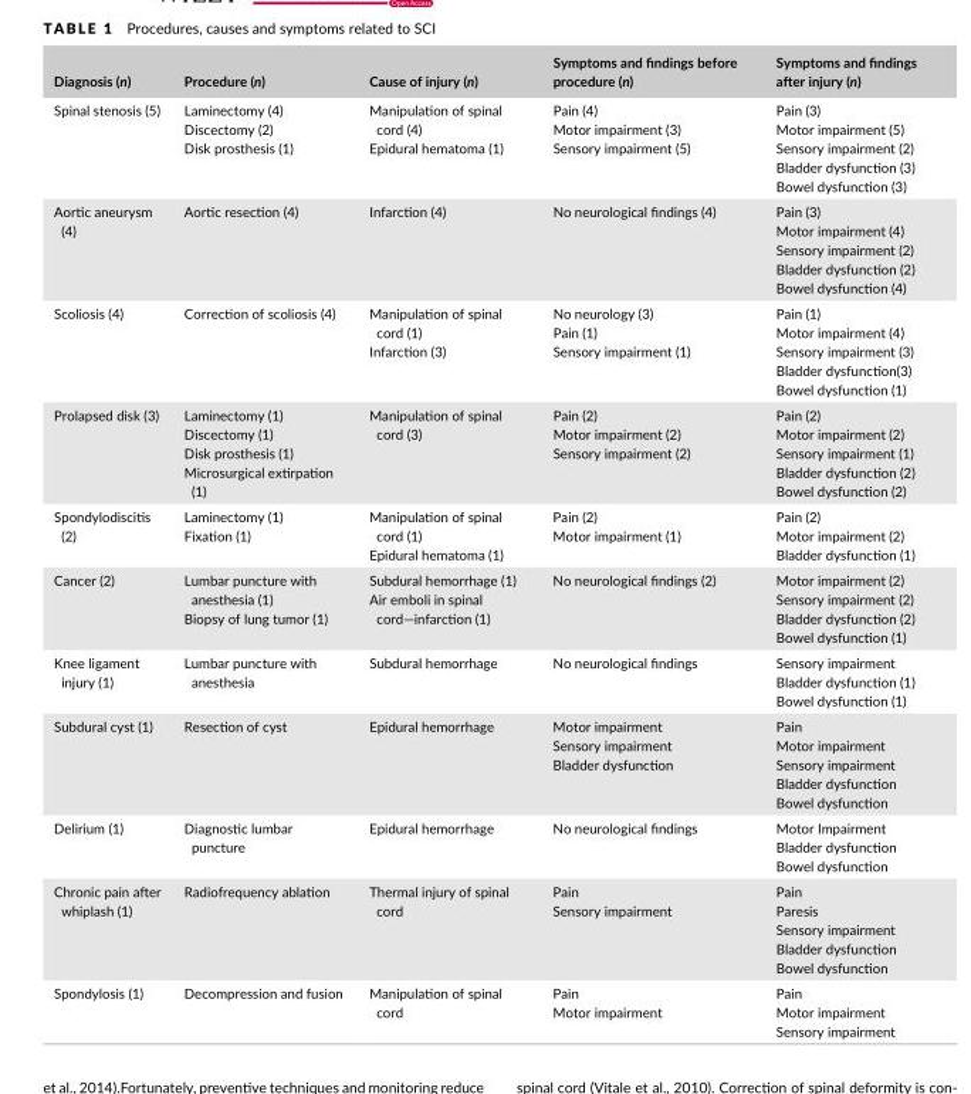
<table><thead><tr><td>Diagnosis (n)</td><td>Procedure (n)</td><td>Cause of injury (n)</td><td>Symptoms and findings before procedure (n)</td><td>Symptoms and findings after injury (n)</td></tr></thead><tbody><tr><td>Spinal stenosis (5)</td><td>Laminectomy (4) Discectomy (2) Disk prosthesis (1)</td><td>Manipulation of spinal cord (4) Epidural hematoma (1)</td><td>Pain (4) Motor impairment (3) Sensory impairment (5)</td><td>Pain (3) Motor impairment (5) Sensory impairment (2) Bladder dysfunction (3) Bowel dysfunction (3)</td></tr><tr><td>Aortic aneurysm (4)</td><td>Aortic resection (4)</td><td>Infarction (4)</td><td>No neurological findings (4)</td><td>Pain (3) Motor impairment (4) Sensory impairment (2) Bladder dysfunction (2) Bowel dysfunction (4)</td></tr><tr><td>Scoliosis (4)</td><td>Correction of scoliosis (4)</td><td>Manipulation of spinal cord (1) Infarction (3)</td><td>No neurology (3) Pain (1) Sensory impairment (1)</td><td>Pain (1) Motor impairment (4) Sensory impairment (3) Bladder dysfunction(3) Bowel dysfunction (1)</td></tr><tr><td>Prolapsed disk (3)</td><td>Laminectomy (1) Discectomy (1) Disk prosthesis (1) Microsurgical extirpation (1)</td><td>Manipulation of spinal cord (3)</td><td>Pain (2) Motor impairment (2) Sensory impairment (2)</td><td>Pain (2) Motor impairment (2) Sensory impairment (1) Bladder dysfunction (2) Bowel dysfunction (2)</td></tr><tr><td>Spondylodiscitis (2)</td><td>Laminectomy (1) Fixation (1)</td><td>Manipulation of spinal cord (1) Epidural hematoma (1)</td><td>Pain (2) Motor impairment (1)</td><td>Pain (2) Motor impairment (2) Bladder dysfunction (1)</td></tr><tr><td>Cancer (2)</td><td>Lumbar puncture with anesthesia (1) Biopsy of lung tumor (1)</td><td>Subdural hemorrhage (1) Air emboli in spinal cord—infarction (1)</td><td>No neurological findings (2)</td><td>Motor impairment (2) Sensory impairment (2) Bladder dysfunction (2) Bowel dysfunction (1)</td></tr><tr><td>Knee ligament injury (1)</td><td>Lumbar puncture with anesthesia</td><td>Subdural hemorrhage</td><td>No neurological findings</td><td>Sensory impairment Bladder dysfunction (1) Bowel dysfunction (1)</td></tr><tr><td>Subdural cyst (1)</td><td>Resection of cyst</td><td>Epidural hemorrhage</td><td>Motor impairment Sensory impairment Bladder dysfunction</td><td>Pain Motor impairment Sensory impairment Bladder dysfunction Bowel dysfunction</td></tr><tr><td>Delirium (1)</td><td>Diagnostic lumbar puncture</td><td>Epidural hemorrhage</td><td>No neurological findings</td><td>Motor Impairment Bladder dysfunction Bowel dysfunction</td></tr><tr><td>Chronic pain after whiplash (1)</td><td>Radiofrequency ablation</td><td>Thermal injury of spinal cord</td><td>Pain Sensory impairment</td><td>Pain Paresis Sensory impairment Bladder dysfunction Bowel dysfunction</td></tr><tr><td>Spondylosis (1)</td><td>Decompression and fusion</td><td>Manipulation of spinal cord</td><td>Pain Motor impairment</td><td>Pain Motor impairment Sensory impairment</td></tr></tbody></table>